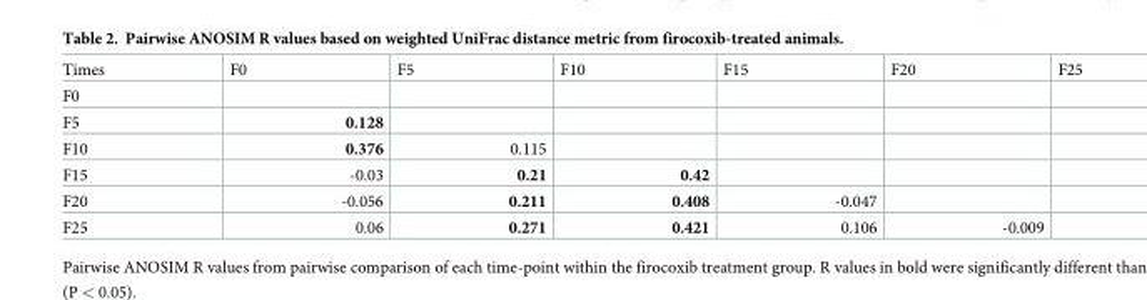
<table><tbody><tr><td>Times</td><td>F0</td><td>F5</td><td>F10</td><td>F15</td><td>F20</td><td>F25</td></tr><tr><td colspan="7">F0</td></tr><tr><td>F5</td><td>0.128</td><td></td><td></td><td></td><td></td><td></td></tr><tr><td>F10</td><td>0.376</td><td>0.115</td><td></td><td></td><td></td><td></td></tr><tr><td>F15</td><td>-0.03</td><td>0.21</td><td>0.42</td><td></td><td></td><td></td></tr><tr><td>F20</td><td>-0.056</td><td>0.211</td><td>0.408</td><td>-0.047</td><td></td><td></td></tr><tr><td>F25</td><td>0.06</td><td>0.271</td><td>0.421</td><td>0.106</td><td>-0.009</td><td></td></tr></tbody></table>